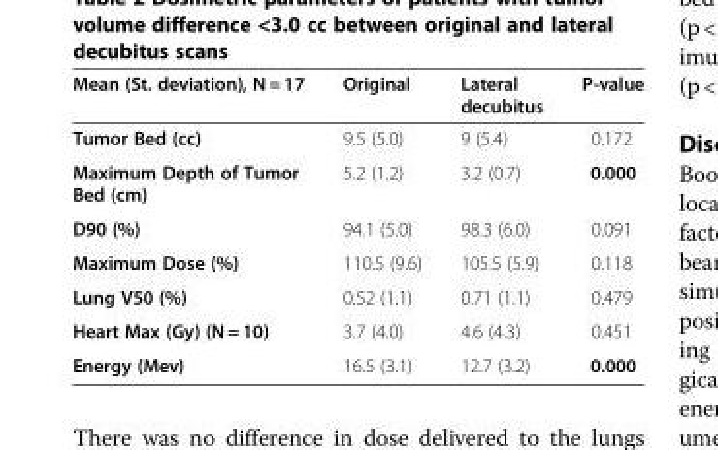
<table><thead><tr><td>Mean (St. deviation), N = 17</td><td>Original</td><td>Lateral decubitus</td><td>P-value</td></tr></thead><tbody><tr><td>Tumor Bed (cc)</td><td>9.5 (5.0)</td><td>9 (5.4)</td><td>0.172</td></tr><tr><td>Maximum Depth of Tumor Bed (cm)</td><td>5.2 (1.2)</td><td>3.2 (0.7)</td><td>0.000</td></tr><tr><td>D90 (%)</td><td>94.1 (5.0)</td><td>98.3 (6.0)</td><td>0.091</td></tr><tr><td>Maximum Dose (%)</td><td>110.5 (9.6)</td><td>105.5 (5.9)</td><td>0.118</td></tr><tr><td>Lung V50 (%)</td><td>0.52 (1.1)</td><td>0.71 (1.1)</td><td>0.479</td></tr><tr><td>Heart Max (Gy) (N = 10)</td><td>3.7 (4.0)</td><td>4.6 (4.3)</td><td>0.451</td></tr><tr><td>Energy (Mev)</td><td>16.5 (3.1)</td><td>12.7 (3.2)</td><td>0.000</td></tr></tbody></table>